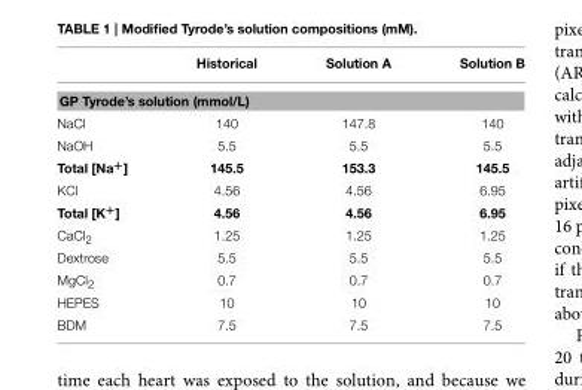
<table><thead><tr><td></td><td>Historical</td><td>Solution A</td><td>Solution B</td></tr></thead><tbody><tr><td colspan="4">GP Tyrode’s solution (mmol/L)</td></tr><tr><td>NaCl</td><td>140</td><td>147.8</td><td>140</td></tr><tr><td>NaOH</td><td>5.5</td><td>5.5</td><td>5.5</td></tr><tr><td>Total [Na<sup>+</sup>]</td><td>145.5</td><td>153.3</td><td>145.5</td></tr><tr><td>KCl</td><td>4.56</td><td>4.56</td><td>6.95</td></tr><tr><td>Total [K<sup>+</sup>]</td><td>4.56</td><td>4.56</td><td>6.95</td></tr><tr><td>CaCl<sub>2</sub></td><td>1.25</td><td>1.25</td><td>1.25</td></tr><tr><td>Dextrose</td><td>5.5</td><td>5.5</td><td>5.5</td></tr><tr><td>MgCl<sub>2</sub></td><td>0.7</td><td>0.7</td><td>0.7</td></tr><tr><td>HEPES</td><td>10</td><td>10</td><td>10</td></tr><tr><td>BDM</td><td>7.5</td><td>7.5</td><td>7.5</td></tr></tbody></table>